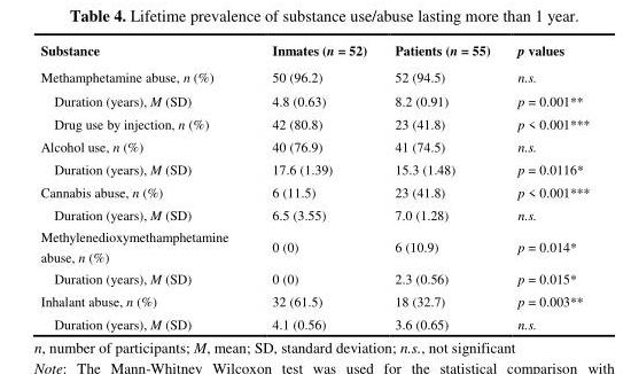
<table><thead><tr><td>Substance</td><td>Inmates (n = 52)</td><td>Patients (n = 55)</td><td>p values</td></tr></thead><tbody><tr><td>Methamphetamine abuse, n (%)</td><td>50 (96.2)</td><td>52 (94.5)</td><td>n.s.</td></tr><tr><td>Duration (years), M (SD)</td><td>4.8 (0.63)</td><td>8.2 (0.91)</td><td>p = 0.001**</td></tr><tr><td>Drug use by injection, n (%)</td><td>42 (80.8)</td><td>23 (41.8)</td><td>p &lt; 0.001***</td></tr><tr><td>Alcohol use, n (%)</td><td>40 (76.9)</td><td>41 (74.5)</td><td>n.s.</td></tr><tr><td>Duration (years), M (SD)</td><td>17.6 (1.39)</td><td>15.3 (1.48)</td><td>p = 0.0116*</td></tr><tr><td>Cannabis abuse, n (%)</td><td>6 (11.5)</td><td>23 (41.8)</td><td>p &lt; 0.001***</td></tr><tr><td>Duration (years), M (SD)</td><td>6.5 (3.55)</td><td>7.0 (1.28)</td><td>n.s.</td></tr><tr><td>Methylenedioxymethamphetamine abuse, n (%)</td><td>0 (0)</td><td>6 (10.9)</td><td>p = 0.014*</td></tr><tr><td>Duration (years), M (SD)</td><td>0 (0)</td><td>2.3 (0.56)</td><td>p = 0.015*</td></tr><tr><td>Inhalant abuse, n (%)</td><td>32 (61.5)</td><td>18 (32.7)</td><td>p = 0.003**</td></tr><tr><td>Duration (years), M (SD)</td><td>4.1 (0.56)</td><td>3.6 (0.65)</td><td>n.s.</td></tr></tbody></table>